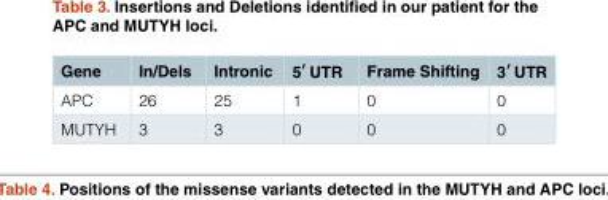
<table><thead><tr><td>Gene</td><td>In/Dels</td><td>Intronic</td><td>5’ UTR</td><td>Frame Shifting</td><td>3’ UTR</td></tr></thead><tbody><tr><td>APC</td><td>26</td><td>25</td><td>1</td><td>0</td><td>0</td></tr><tr><td>MUTYH</td><td>3</td><td>3</td><td>0</td><td>0</td><td>0</td></tr></tbody></table>